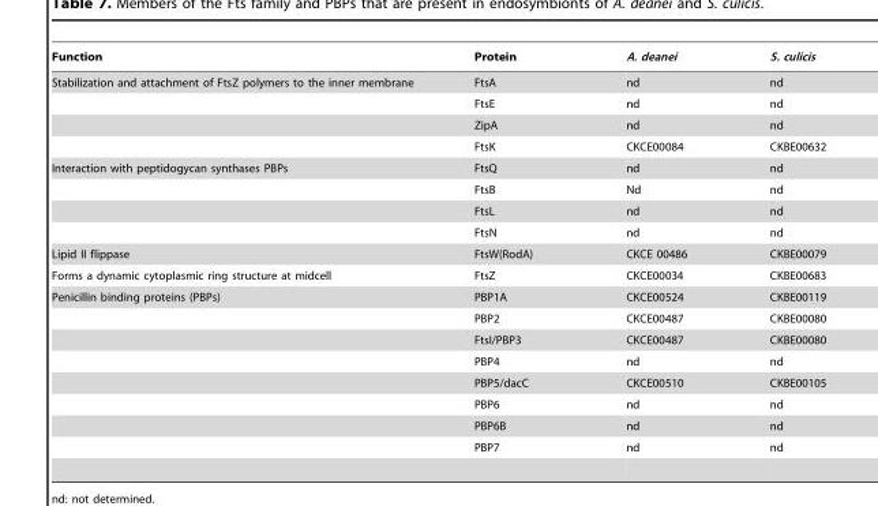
<table><thead><tr><td>Function</td><td>Protein</td><td>A. deanei</td><td>S. culicis</td></tr></thead><tbody><tr><td rowspan="4">Stabilization and attachment of FtsZ polymers to the inner membrane</td><td>FtsA</td><td>nd</td><td>nd</td></tr><tr><td>FtsE</td><td>nd</td><td>nd</td></tr><tr><td>ZipA</td><td>nd</td><td>nd</td></tr><tr><td>FtsK</td><td>CKCE00084</td><td>CKBE00632</td></tr><tr><td rowspan="4">Interaction with peptidogycan synthases PBPs</td><td>FtsQ</td><td>nd</td><td>nd</td></tr><tr><td>FtsB</td><td>Nd</td><td>nd</td></tr><tr><td>FtsL</td><td>nd</td><td>nd</td></tr><tr><td>FtsN</td><td>nd</td><td>nd</td></tr><tr><td>Lipid II flippase</td><td>FtsW(RodA)</td><td>CKCE 00486</td><td>CKBE00079</td></tr><tr><td>Forms a dynamic cytoplasmic ring structure at midcell</td><td>FtsZ</td><td>CKCE00034</td><td>CKBE00683</td></tr><tr><td rowspan="8">Penicillin binding proteins (PBPs)</td><td>PBP1A</td><td>CKCE00524</td><td>CKBE00119</td></tr><tr><td>PBP2</td><td>CKCE00487</td><td>CKBE00080</td></tr><tr><td>FtsI/PBP3</td><td>CKCE00487</td><td>CKBE00080</td></tr><tr><td>PBP4</td><td>nd</td><td>nd</td></tr><tr><td>PBP5/dacC</td><td>CKCE00510</td><td>CKBE00105</td></tr><tr><td>PBP6</td><td>nd</td><td>nd</td></tr><tr><td>PBP6B</td><td>nd</td><td>nd</td></tr><tr><td>PBP7</td><td>nd</td><td>nd</td></tr></tbody></table>